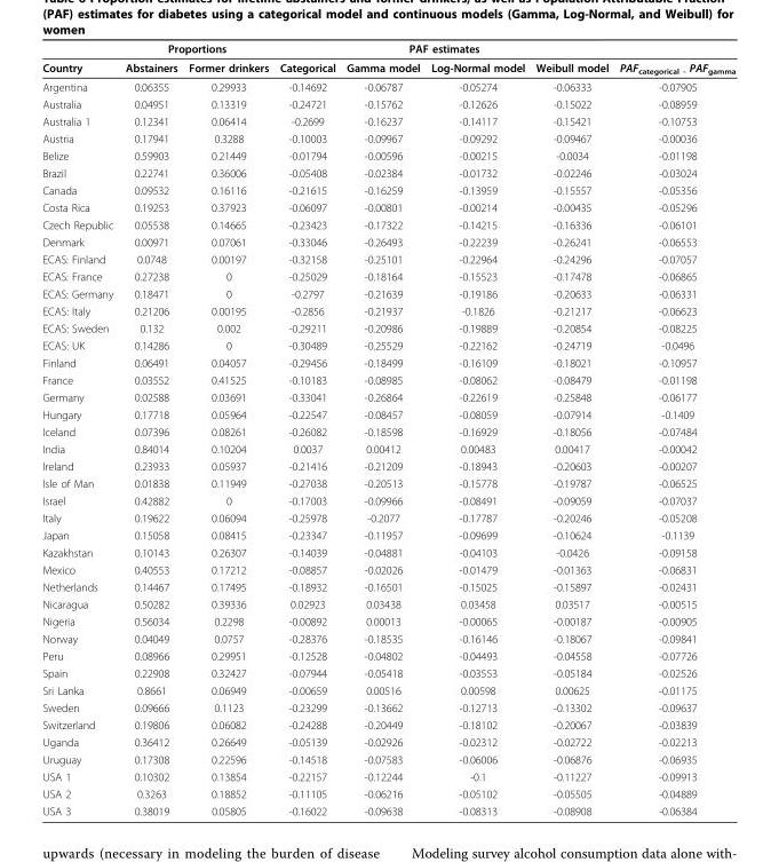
<table><thead><tr><td rowspan="2">Country</td><td colspan="2">Proportions</td><td colspan="4">PAF estimates</td><td rowspan="2">PAF<sub>categorical -</sub> PAF<sub>gamma</sub></td></tr><tr><td>Abstainers</td><td>Former drinkers</td><td>Categorical</td><td>Gamma model</td><td>Log-Normal model</td><td>Weibull model</td></tr></thead><tbody><tr><td>Argentina</td><td>0.06355</td><td>0.29933</td><td>-0.14692</td><td>-0.06787</td><td>-0.05274</td><td>-0.06333</td><td>-0.07905</td></tr><tr><td>Australia</td><td>0.04951</td><td>0.13319</td><td>-0.24721</td><td>-0.15762</td><td>-0.12626</td><td>-0.15022</td><td>-0.08959</td></tr><tr><td>Australia 1</td><td>0.12341</td><td>0.06414</td><td>-0.2699</td><td>-0.16237</td><td>-0.14117</td><td>-0.15421</td><td>-0.10753</td></tr><tr><td>Austria</td><td>0.17941</td><td>0.3288</td><td>-0.10003</td><td>-0.09967</td><td>-0.09292</td><td>-0.09467</td><td>-0.00036</td></tr><tr><td>Belize</td><td>0.59903</td><td>0.21449</td><td>-0.01794</td><td>-0.00596</td><td>-0.00215</td><td>-0.0034</td><td>-0.01198</td></tr><tr><td>Brazil</td><td>0.22741</td><td>0.36006</td><td>-0.05408</td><td>-0.02384</td><td>-0.01732</td><td>-0.02246</td><td>-0.03024</td></tr><tr><td>Canada</td><td>0.09532</td><td>0.16116</td><td>-0.21615</td><td>-0.16259</td><td>-0.13959</td><td>-0.15557</td><td>-0.05356</td></tr><tr><td>Costa Rica</td><td>0.19253</td><td>0.37923</td><td>-0.06097</td><td>-0.00801</td><td>-0.00214</td><td>-0.00435</td><td>-0.05296</td></tr><tr><td>Czech Republic</td><td>0.05538</td><td>0.14665</td><td>-0.23423</td><td>-0.17322</td><td>-0.14215</td><td>-0.16336</td><td>-0.06101</td></tr><tr><td>Denmark</td><td>0.00971</td><td>0.07061</td><td>-0.33046</td><td>-0.26493</td><td>-0.22239</td><td>-0.26241</td><td>-0.06553</td></tr><tr><td>ECAS: Finland</td><td>0.0748</td><td>0.00197</td><td>-0.32158</td><td>-0.25101</td><td>-0.22964</td><td>-0.24296</td><td>-0.07057</td></tr><tr><td>ECAS: France</td><td>0.27238</td><td>0</td><td>-0.25029</td><td>-0.18164</td><td>-0.15523</td><td>-0.17478</td><td>-0.06865</td></tr><tr><td>ECAS: Germany</td><td>0.18471</td><td>0</td><td>-0.2797</td><td>-0.21639</td><td>-0.19186</td><td>-0.20633</td><td>-0.06331</td></tr><tr><td>ECAS: Italy</td><td>0.21206</td><td>0.00195</td><td>-0.2856</td><td>-0.21937</td><td>-0.1826</td><td>-0.21217</td><td>-0.06623</td></tr><tr><td>ECAS: Sweden</td><td>0.132</td><td>0.002</td><td>-0.29211</td><td>-0.20986</td><td>-0.19889</td><td>-0.20854</td><td>-0.08225</td></tr><tr><td>ECAS: UK</td><td>0.14286</td><td>0</td><td>-0.30489</td><td>-0.25529</td><td>-0.22162</td><td>-0.24719</td><td>-0.0496</td></tr><tr><td>Finland</td><td>0.06491</td><td>0.04057</td><td>-0.29456</td><td>-0.18499</td><td>-0.16109</td><td>-0.18021</td><td>-0.10957</td></tr><tr><td>France</td><td>0.03552</td><td>0.41525</td><td>-0.10183</td><td>-0.08985</td><td>-0.08062</td><td>-0.08479</td><td>-0.01198</td></tr><tr><td>Germany</td><td>0.02588</td><td>0.03691</td><td>-0.33041</td><td>-0.26864</td><td>-0.22619</td><td>-0.25848</td><td>-0.06177</td></tr><tr><td>Hungary</td><td>0.17718</td><td>0.05964</td><td>-0.22547</td><td>-0.08457</td><td>-0.08059</td><td>-0.07914</td><td>-0.1409</td></tr><tr><td>Iceland</td><td>0.07396</td><td>0.08261</td><td>-0.26082</td><td>-0.18598</td><td>-0.16929</td><td>-0.18056</td><td>-0.07484</td></tr><tr><td>India</td><td>0.84014</td><td>0.10204</td><td>0.0037</td><td>0.00412</td><td>0.00483</td><td>0.00417</td><td>-0.00042</td></tr><tr><td>Ireland</td><td>0.23933</td><td>0.05937</td><td>-0.21416</td><td>-0.21209</td><td>-0.18943</td><td>-0.20603</td><td>-0.00207</td></tr><tr><td>Isle of Man</td><td>0.01838</td><td>0.11949</td><td>-0.27038</td><td>-0.20513</td><td>-0.15778</td><td>-0.19787</td><td>-0.06525</td></tr><tr><td>Israel</td><td>0.42882</td><td>0</td><td>-0.17003</td><td>-0.09966</td><td>-0.08491</td><td>-0.09059</td><td>-0.07037</td></tr><tr><td>Italy</td><td>0.19622</td><td>0.06094</td><td>-0.25978</td><td>-0.2077</td><td>-0.17787</td><td>-0.20246</td><td>-0.05208</td></tr><tr><td>Japan</td><td>0.15058</td><td>0.08415</td><td>-0.23347</td><td>-0.11957</td><td>-0.09699</td><td>-0.10624</td><td>-0.1139</td></tr><tr><td>Kazakhstan</td><td>0.10143</td><td>0.26307</td><td>-0.14039</td><td>-0.04881</td><td>-0.04103</td><td>-0.0426</td><td>-0.09158</td></tr><tr><td>Mexico</td><td>0.40553</td><td>0.17212</td><td>-0.08857</td><td>-0.02026</td><td>-0.01479</td><td>-0.01363</td><td>-0.06831</td></tr><tr><td>Netherlands</td><td>0.14467</td><td>0.17495</td><td>-0.18932</td><td>-0.16501</td><td>-0.15025</td><td>-0.15897</td><td>-0.02431</td></tr><tr><td>Nicaragua</td><td>0.50282</td><td>0.39336</td><td>0.02923</td><td>0.03438</td><td>0.03458</td><td>0.03517</td><td>-0.00515</td></tr><tr><td>Nigeria</td><td>0.56034</td><td>0.2298</td><td>-0.00892</td><td>0.00013</td><td>-0.00065</td><td>-0.00187</td><td>-0.00905</td></tr><tr><td>Norway</td><td>0.04049</td><td>0.0757</td><td>-0.28376</td><td>-0.18535</td><td>-0.16146</td><td>-0.18067</td><td>-0.09841</td></tr><tr><td>Peru</td><td>0.08966</td><td>0.29951</td><td>-0.12528</td><td>-0.04802</td><td>-0.04493</td><td>-0.04558</td><td>-0.07726</td></tr><tr><td>Spain</td><td>0.22908</td><td>0.32427</td><td>-0.07944</td><td>-0.05418</td><td>-0.03553</td><td>-0.05184</td><td>-0.02526</td></tr><tr><td>Sri Lanka</td><td>0.8661</td><td>0.06949</td><td>-0.00659</td><td>0.00516</td><td>0.00598</td><td>0.00625</td><td>-0.01175</td></tr><tr><td>Sweden</td><td>0.09666</td><td>0.1123</td><td>-0.23299</td><td>-0.13662</td><td>-0.12713</td><td>-0.13302</td><td>-0.09637</td></tr><tr><td>Switzerland</td><td>0.19806</td><td>0.06082</td><td>-0.24288</td><td>-0.20449</td><td>-0.18102</td><td>-0.20067</td><td>-0.03839</td></tr><tr><td>Uganda</td><td>0.36412</td><td>0.26649</td><td>-0.05139</td><td>-0.02926</td><td>-0.02312</td><td>-0.02722</td><td>-0.02213</td></tr><tr><td>Uruguay</td><td>0.17308</td><td>0.22596</td><td>-0.14518</td><td>-0.07583</td><td>-0.06006</td><td>-0.06876</td><td>-0.06935</td></tr><tr><td>USA 1</td><td>0.10302</td><td>0.13854</td><td>-0.22157</td><td>-0.12244</td><td>-0.1</td><td>-0.11227</td><td>-0.09913</td></tr><tr><td>USA 2</td><td>0.3263</td><td>0.18852</td><td>-0.11105</td><td>-0.06216</td><td>-0.05102</td><td>-0.05505</td><td>-0.04889</td></tr><tr><td>USA 3</td><td>0.38019</td><td>0.05805</td><td>-0.16022</td><td>-0.09638</td><td>-0.08313</td><td>-0.08908</td><td>-0.06384</td></tr></tbody></table>